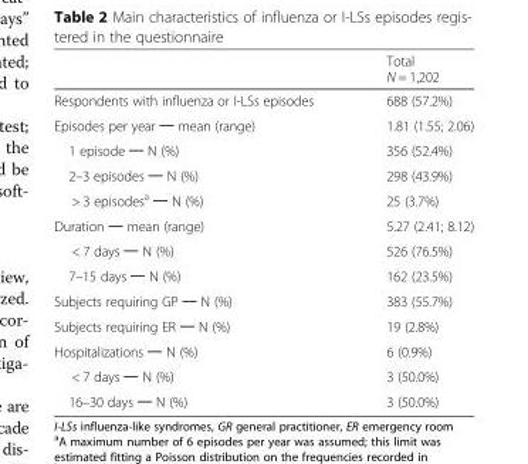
<table><thead><tr><td></td><td>Total N = 1,202</td></tr></thead><tbody><tr><td>Respondents with influenza or I-LSs episodes</td><td>688 (57.2%)</td></tr><tr><td>Episodes per year ─ mean (range)</td><td>1.81 (1.55; 2.06)</td></tr><tr><td>1 episode ─ N (%)</td><td>356 (52.4%)</td></tr><tr><td>2–3 episodes ─ N (%)</td><td>298 (43.9%)</td></tr><tr><td>&gt; 3 episodes<sup>a</sup> ─ N (%)</td><td>25 (3.7%)</td></tr><tr><td>Duration ─ mean (range)</td><td>5.27 (2.41; 8.12)</td></tr><tr><td>&lt; 7 days ─ N (%)</td><td>526 (76.5%)</td></tr><tr><td>7–15 days ─ N (%)</td><td>162 (23.5%)</td></tr><tr><td>Subjects requiring GP ─ N (%)</td><td>383 (55.7%)</td></tr><tr><td>Subjects requiring ER ─ N (%)</td><td>19 (2.8%)</td></tr><tr><td>Hospitalizations ─ N (%)</td><td>6 (0.9%)</td></tr><tr><td>&lt; 7 days ─ N (%)</td><td>3 (50.0%)</td></tr><tr><td>16–30 days ─ N (%)</td><td>3 (50.0%)</td></tr></tbody></table>